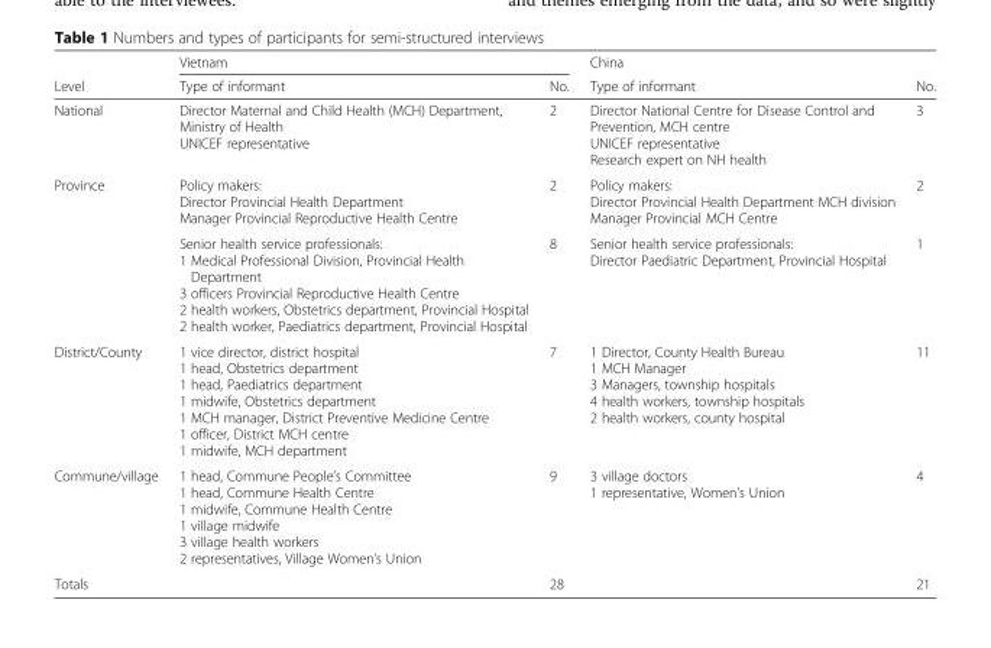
<table><thead><tr><td rowspan="2">Level</td><td colspan="2">Vietnam</td><td rowspan="2">China Type of informant</td><td rowspan="2">No.</td></tr><tr><td>Type of informant</td><td>No.</td></tr></thead><tbody><tr><td>National</td><td>Director Maternal and Child Health (MCH) Department, Ministry of Health UNICEF representative</td><td>2</td><td>Director National Centre for Disease Control and Prevention, MCH centre UNICEF representative Research expert on NH health</td><td>3</td></tr><tr><td rowspan="2">Province</td><td>Policy makers: Director Provincial Health Department Manager Provincial Reproductive Health Centre</td><td>2</td><td>Policy makers: Director Provincial Health Department MCH division Manager Provincial MCH Centre</td><td>2</td></tr><tr><td>Senior health service professionals: 1 Medical Professional Division, Provincial Health Department 3 officers Provincial Reproductive Health Centre 2 health workers, Obstetrics department, Provincial Hospital 2 health worker, Paediatrics department, Provincial Hospital</td><td>8</td><td>Senior health service professionals: Director Paediatric Department, Provincial Hospital</td><td>1</td></tr><tr><td>District/County</td><td>1 vice director, district hospital 1 head, Obstetrics department 1 head, Paediatrics department 1 midwife, Obstetrics department 1 MCH manager, District Preventive Medicine Centre 1 officer, District MCH centre 1 midwife, MCH department</td><td>7</td><td>1 Director, County Health Bureau 1 MCH Manager 3 Managers, township hospitals 4 health workers, township hospitals 2 health workers, county hospital</td><td>11</td></tr><tr><td>Commune/village</td><td>1 head, Commune People’s Committee 1 head, Commune Health Centre 1 midwife, Commune Health Centre 1 village midwife 3 village health workers 2 representatives, Village Women’s Union</td><td>9</td><td>3 village doctors 1 representative, Women’s Union</td><td>4</td></tr><tr><td>Totals</td><td></td><td>28</td><td></td><td>21</td></tr></tbody></table>